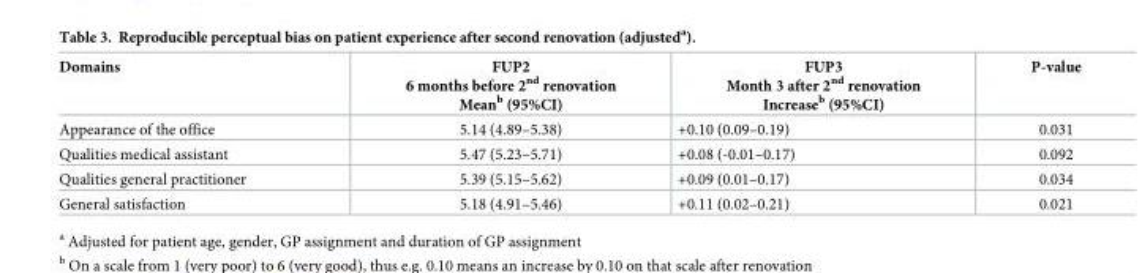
<table><thead><tr><td>Domains</td><td>FUP2 6 months before 2<sup>nd</sup> renovation Mean<sup>b</sup> (95%CI)</td><td>FUP3 Month 3 after 2<sup>nd</sup> renovation Increase<sup>b</sup> (95%CI)</td><td>P-value</td></tr></thead><tbody><tr><td>Appearance of the office</td><td>5.14 (4.89–5.38)</td><td>+0.10 (0.09–0.19)</td><td>0.031</td></tr><tr><td>Qualities medical assistant</td><td>5.47 (5.23–5.71)</td><td>+0.08 (-0.01–0.17)</td><td>0.092</td></tr><tr><td>Qualities general practitioner</td><td>5.39 (5.15–5.62)</td><td>+0.09 (0.01–0.17)</td><td>0.034</td></tr><tr><td>General satisfaction</td><td>5.18 (4.91–5.46)</td><td>+0.11 (0.02–0.21)</td><td>0.021</td></tr></tbody></table>